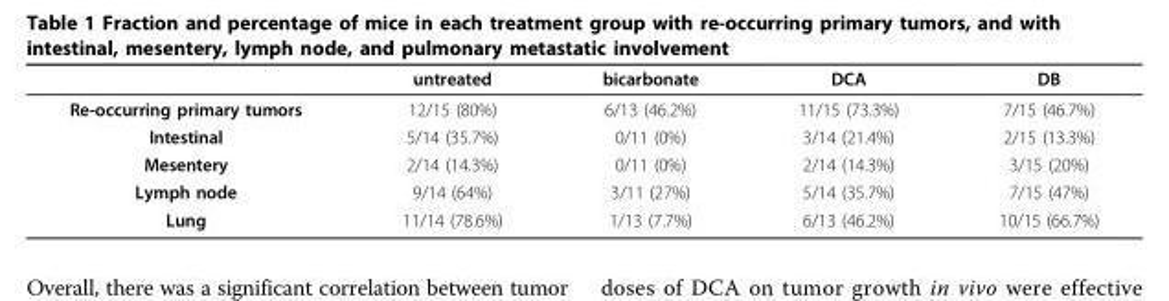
<table><thead><tr><td></td><td>untreated</td><td>bicarbonate</td><td>DCA</td><td>DB</td></tr></thead><tbody><tr><td>Re-occurring primary tumors</td><td>12/15 (80%)</td><td>6/13 (46.2%)</td><td>11/15 (73.3%)</td><td>7/15 (46.7%)</td></tr><tr><td>Intestinal</td><td>5/14 (35.7%)</td><td>0/11 (0%)</td><td>3/14 (21.4%)</td><td>2/15 (13.3%)</td></tr><tr><td>Mesentery</td><td>2/14 (14.3%)</td><td>0/11 (0%)</td><td>2/14 (14.3%)</td><td>3/15 (20%)</td></tr><tr><td>Lymph node</td><td>9/14 (64%)</td><td>3/11 (27%)</td><td>5/14 (35.7%)</td><td>7/15 (47%)</td></tr><tr><td>Lung</td><td>11/14 (78.6%)</td><td>1/13 (7.7%)</td><td>6/13 (46.2%)</td><td>10/15 (66.7%)</td></tr></tbody></table>